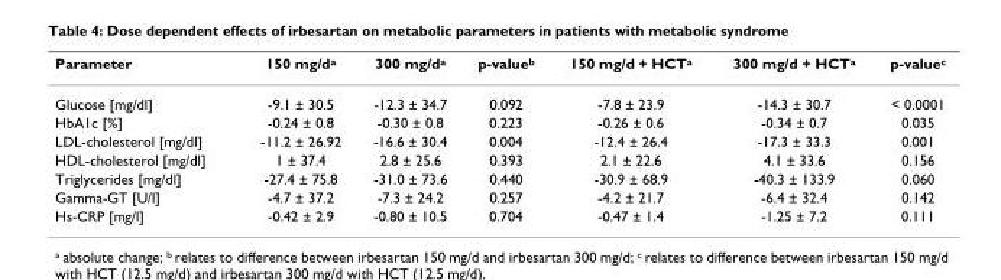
<table><thead><tr><td>Parameter</td><td>150 mg/d<sup>a</sup></td><td>300 mg/d<sup>a</sup></td><td>p-value<sup>b</sup></td><td>150 mg/d + HCT<sup>a</sup></td><td>300 mg/d + HCT<sup>a</sup></td><td>p-value<sup>c</sup></td></tr></thead><tbody><tr><td>Glucose [mg/dl]</td><td>-9.1 ± 30.5</td><td>-12.3 ± 34.7</td><td>0.092</td><td>-7.8 ± 23.9</td><td>-14.3 ± 30.7</td><td>&lt; 0.0001</td></tr><tr><td>HbA1c [%]</td><td>-0.24 ± 0.8</td><td>-0.30 ± 0.8</td><td>0.223</td><td>-0.26 ± 0.6</td><td>-0.34 ± 0.7</td><td>0.035</td></tr><tr><td>LDL-cholesterol [mg/dl]</td><td>-11.2 ± 26.92</td><td>-16.6 ± 30.4</td><td>0.004</td><td>-12.4 ± 26.4</td><td>-17.3 ± 33.3</td><td>0.001</td></tr><tr><td>HDL-cholesterol [mg/dl]</td><td>1 ± 37.4</td><td>2.8 ± 25.6</td><td>0.393</td><td>2.1 ± 22.6</td><td>4.1 ± 33.6</td><td>0.156</td></tr><tr><td>Triglycerides [mg/dl]</td><td>-27.4 ± 75.8</td><td>-31.0 ± 73.6</td><td>0.440</td><td>-30.9 ± 68.9</td><td>-40.3 ± 133.9</td><td>0.060</td></tr><tr><td>Gamma-GT [U/l]</td><td>-4.7 ± 37.2</td><td>-7.3 ± 24.2</td><td>0.257</td><td>-4.2 ± 21.7</td><td>-6.4 ± 32.4</td><td>0.142</td></tr><tr><td>Hs-CRP [mg/l]</td><td>-0.42 ± 2.9</td><td>-0.80 ± 10.5</td><td>0.704</td><td>-0.47 ± 1.4</td><td>-1.25 ± 7.2</td><td>0.111</td></tr></tbody></table>